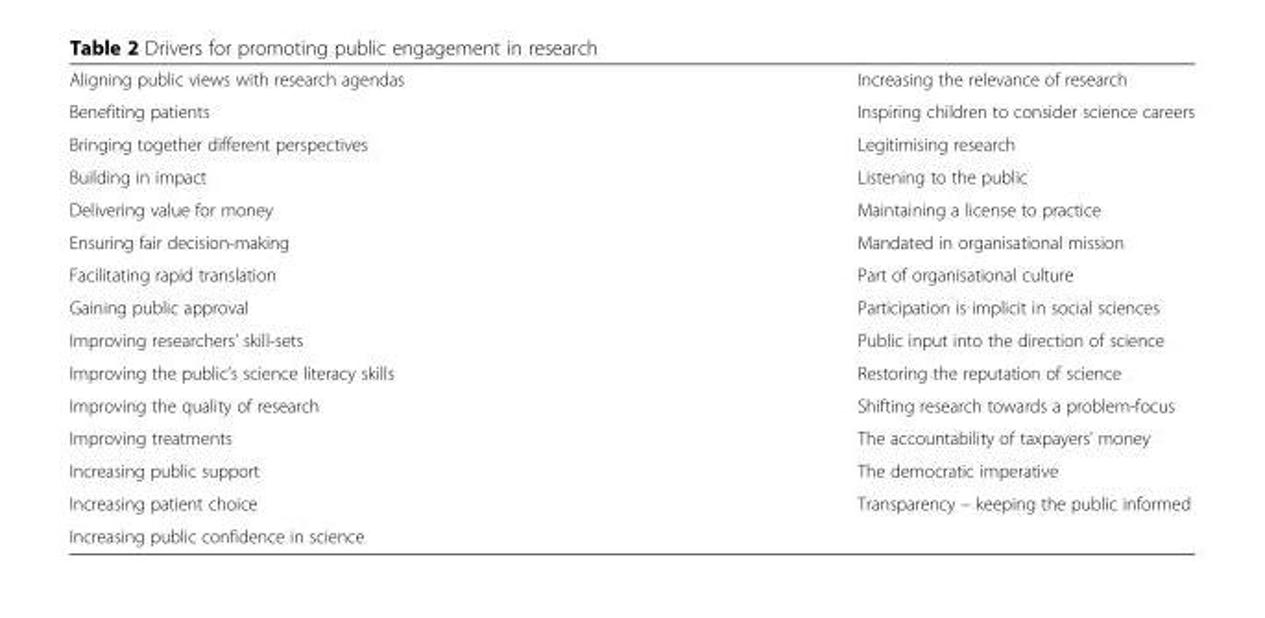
<table><tbody><tr><td>Aligning public views with research agendas</td><td>Increasing the relevance of research</td></tr><tr><td>Benefiting patients</td><td>Inspiring children to consider science careers</td></tr><tr><td>Bringing together different perspectives</td><td>Legitimising research</td></tr><tr><td>Building in impact</td><td>Listening to the public</td></tr><tr><td>Delivering value for money</td><td>Maintaining a license to practice</td></tr><tr><td>Ensuring fair decision-making</td><td>Mandated in organisational mission</td></tr><tr><td>Facilitating rapid translation</td><td>Part of organisational culture</td></tr><tr><td>Gaining public approval</td><td>Participation is implicit in social sciences</td></tr><tr><td>Improving researchers’ skill-sets</td><td>Public input into the direction of science</td></tr><tr><td>Improving the public’s science literacy skills</td><td>Restoring the reputation of science</td></tr><tr><td>Improving the quality of research</td><td>Shifting research towards a problem-focus</td></tr><tr><td>Improving treatments</td><td>The accountability of taxpayers’ money</td></tr><tr><td>Increasing public support</td><td>The democratic imperative</td></tr><tr><td>Increasing patient choice</td><td>Transparency – keeping the public informed</td></tr><tr><td>Increasing public confidence in science</td><td></td></tr></tbody></table>